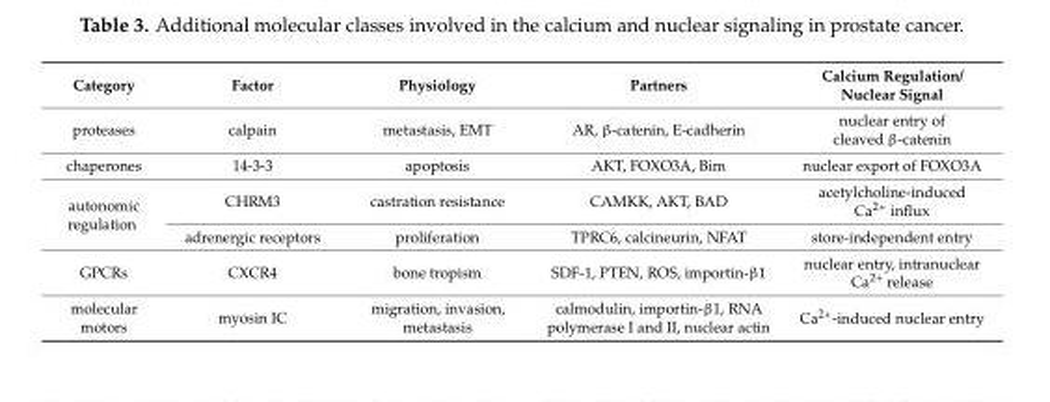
<table><thead><tr><td>Category</td><td>Factor</td><td>Physiology</td><td>Partners</td><td>Calcium Regulation/ Nuclear Signal</td></tr></thead><tbody><tr><td>proteases</td><td>calpain</td><td>metastasis, EMT</td><td>AR, β-catenin, E-cadherin</td><td>nuclear entry of cleaved β-catenin</td></tr><tr><td>chaperones</td><td>14-3-3</td><td>apoptosis</td><td>AKT, FOXO3A, Bim</td><td>nuclear export of FOXO3A</td></tr><tr><td rowspan="2">autonomic regulation</td><td>CHRM3</td><td>castration resistance</td><td>CAMKK, AKT, BAD</td><td>acetylcholine-induced Ca<sup>2+</sup> influx</td></tr><tr><td>adrenergic receptors</td><td>proliferation</td><td>TPRC6, calcineurin, NFAT</td><td>store-independent entry</td></tr><tr><td>GPCRs</td><td>CXCR4</td><td>bone tropism</td><td>SDF-1, PTEN, ROS, importin-β1</td><td>nuclear entry, intranuclear Ca<sup>2+</sup> release</td></tr><tr><td>molecular motors</td><td>myosin IC</td><td>migration, invasion, metastasis</td><td>calmodulin, importin-β1, RNA polymerase I and II, nuclear actin</td><td>Ca<sup>2+</sup>-induced nuclear entry</td></tr></tbody></table>